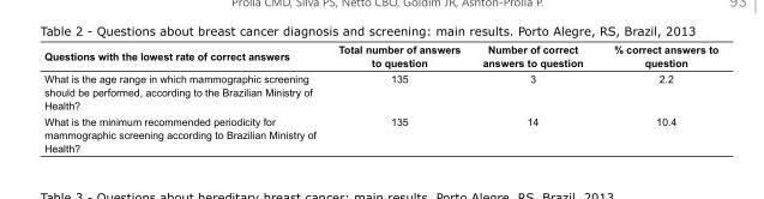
<table><thead><tr><td>Questions with the lowest rate of correct answers</td><td>Total number of answers to question</td><td>Number of correct answers to question</td><td>% correct answers to question</td></tr></thead><tbody><tr><td>What is the age range in which mammographic screening should be performed, according to the Brazilian Ministry of Health?</td><td>135</td><td>3</td><td>2.2</td></tr><tr><td>What is the minimum recommended periodicity for mammographic screening according to Brazilian Ministry of Health?</td><td>135</td><td>14</td><td>10.4</td></tr></tbody></table>